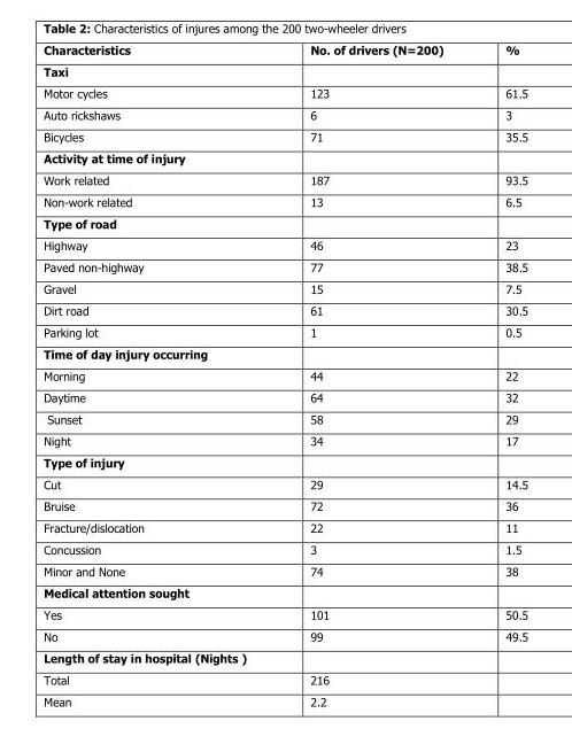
<table><thead><tr><td>Characteristics</td><td>No. of drivers (N=200)</td><td>%</td></tr></thead><tbody><tr><td colspan="3">Taxi</td></tr><tr><td>Motor cycles</td><td>123</td><td>61.5</td></tr><tr><td>Auto rickshaws</td><td>6</td><td>3</td></tr><tr><td>Bicycles</td><td>71</td><td>35.5</td></tr><tr><td colspan="3">Activity at time of injury</td></tr><tr><td>Work related</td><td>187</td><td>93.5</td></tr><tr><td>Non-work related</td><td>13</td><td>6.5</td></tr><tr><td colspan="3">Type of road</td></tr><tr><td>Highway</td><td>46</td><td>23</td></tr><tr><td>Paved non-highway</td><td>77</td><td>38.5</td></tr><tr><td>Gravel</td><td>15</td><td>7.5</td></tr><tr><td>Dirt road</td><td>61</td><td>30.5</td></tr><tr><td>Parking lot</td><td>1</td><td>0.5</td></tr><tr><td colspan="3">Time of day injury occurring</td></tr><tr><td>Morning</td><td>44</td><td>22</td></tr><tr><td>Daytime</td><td>64</td><td>32</td></tr><tr><td>Sunset</td><td>58</td><td>29</td></tr><tr><td>Night</td><td>34</td><td>17</td></tr><tr><td colspan="3">Type of injury</td></tr><tr><td>Cut</td><td>29</td><td>14.5</td></tr><tr><td>Bruise</td><td>72</td><td>36</td></tr><tr><td>Fracture/dislocation</td><td>22</td><td>11</td></tr><tr><td>Concussion</td><td>3</td><td>1.5</td></tr><tr><td>Minor and None</td><td>74</td><td>38</td></tr><tr><td colspan="3">Medical attention sought</td></tr><tr><td>Yes</td><td>101</td><td>50.5</td></tr><tr><td>No</td><td>99</td><td>49.5</td></tr><tr><td colspan="3">Length of stay in hospital (Nights )</td></tr><tr><td>Total</td><td>216</td><td></td></tr><tr><td>Mean</td><td>2.2</td><td></td></tr></tbody></table>